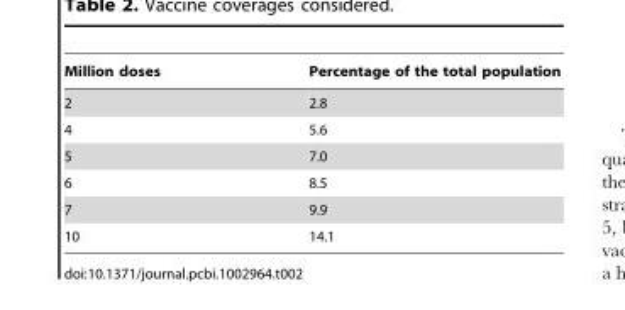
<table><thead><tr><td>Million doses</td><td>Percentage of the total population</td></tr></thead><tbody><tr><td>2</td><td>2.8</td></tr><tr><td>4</td><td>5.6</td></tr><tr><td>5</td><td>7.0</td></tr><tr><td>6</td><td>8.5</td></tr><tr><td>7</td><td>9.9</td></tr><tr><td>10</td><td>14.1</td></tr></tbody></table>